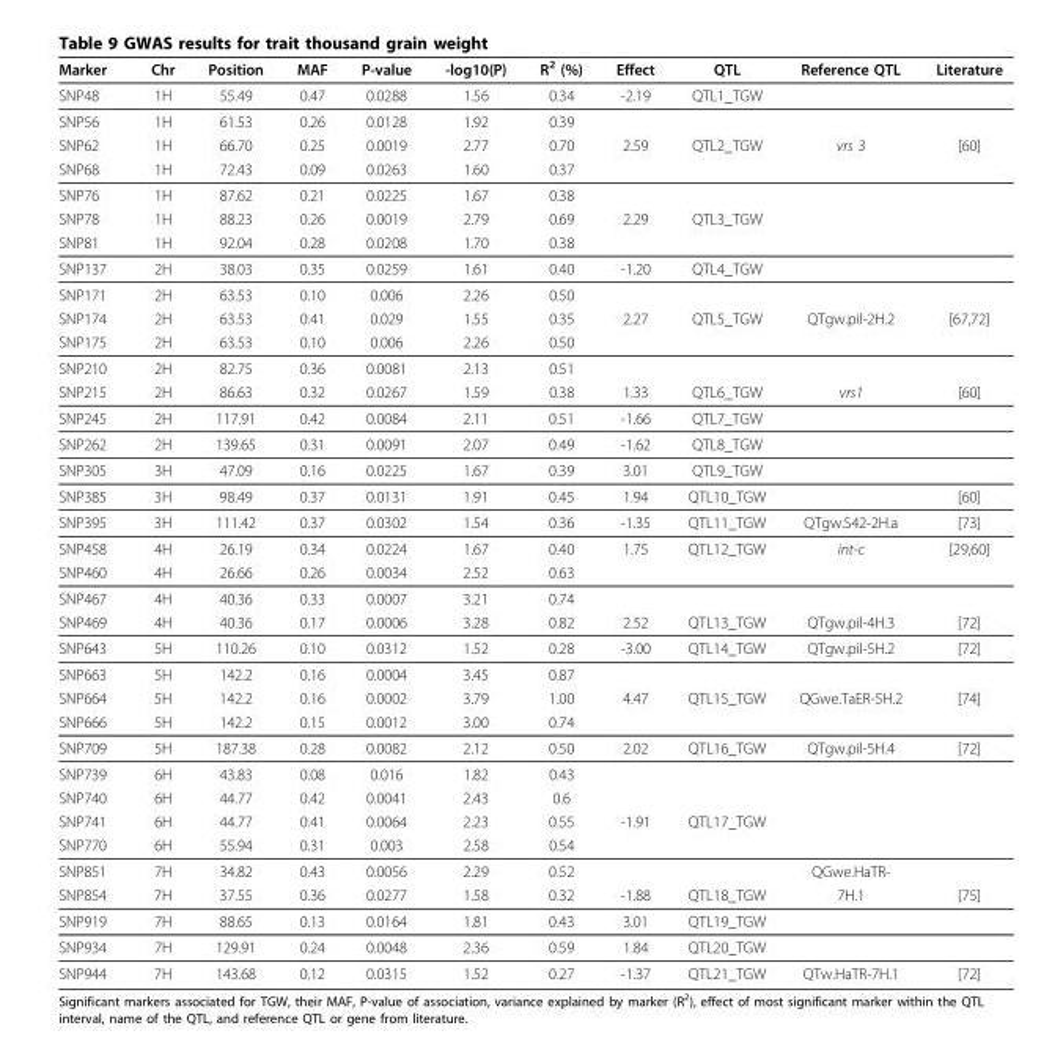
<table><thead><tr><td>Marker</td><td>Chr</td><td>Position</td><td>MAF</td><td>P-value</td><td>-log10(P)</td><td>R<sup>2</sup> (%)</td><td>Effect</td><td>QTL</td><td>Reference QTL</td><td>Literature</td></tr></thead><tbody><tr><td>SNP48</td><td>1H</td><td>55.49</td><td>0.47</td><td>0.0288</td><td>1.56</td><td>0.34</td><td>-2.19</td><td>QTL1_TGW</td><td></td><td></td></tr><tr><td>SNP56</td><td>1H</td><td>61.53</td><td>0.26</td><td>0.0128</td><td>1.92</td><td>0.39</td><td></td><td></td><td></td><td></td></tr><tr><td>SNP62</td><td>1H</td><td>66.70</td><td>0.25</td><td>0.0019</td><td>2.77</td><td>0.70</td><td>2.59</td><td>QTL2_TGW</td><td>vrs 3</td><td>[60]</td></tr><tr><td>SNP68</td><td>1H</td><td>72.43</td><td>0.09</td><td>0.0263</td><td>1.60</td><td>0.37</td><td></td><td></td><td></td><td></td></tr><tr><td>SNP76</td><td>1H</td><td>87.62</td><td>0.21</td><td>0.0225</td><td>1.67</td><td>0.38</td><td></td><td></td><td></td><td></td></tr><tr><td>SNP78</td><td>1H</td><td>88.23</td><td>0.26</td><td>0.0019</td><td>2.79</td><td>0.69</td><td>2.29</td><td>QTL3_TGW</td><td></td><td></td></tr><tr><td>SNP81</td><td>1H</td><td>92.04</td><td>0.28</td><td>0.0208</td><td>1.70</td><td>0.38</td><td></td><td></td><td></td><td></td></tr><tr><td>SNP137</td><td>2H</td><td>38.03</td><td>0.35</td><td>0.0259</td><td>1.61</td><td>0.40</td><td>-1.20</td><td>QTL4_TGW</td><td></td><td></td></tr><tr><td>SNP171</td><td>2H</td><td>63.53</td><td>0.10</td><td>0.006</td><td>2.26</td><td>0.50</td><td></td><td></td><td></td><td></td></tr><tr><td>SNP174</td><td>2H</td><td>63.53</td><td>0.41</td><td>0.029</td><td>1.55</td><td>0.35</td><td>2.27</td><td>QTL5_TGW</td><td>QTgw.pil-2H.2</td><td>[67,72]</td></tr><tr><td>SNP175</td><td>2H</td><td>63.53</td><td>0.10</td><td>0.006</td><td>2.26</td><td>0.50</td><td></td><td></td><td></td><td></td></tr><tr><td>SNP210</td><td>2H</td><td>82.75</td><td>0.36</td><td>0.0081</td><td>2.13</td><td>0.51</td><td></td><td></td><td></td><td></td></tr><tr><td>SNP215</td><td>2H</td><td>86.63</td><td>0.32</td><td>0.0267</td><td>1.59</td><td>0.38</td><td>1.33</td><td>QTL6_TGW</td><td>vrs1</td><td>[60]</td></tr><tr><td>SNP245</td><td>2H</td><td>117.91</td><td>0.42</td><td>0.0084</td><td>2.11</td><td>0.51</td><td>-1.66</td><td>QTL7_TGW</td><td></td><td></td></tr><tr><td>SNP262</td><td>2H</td><td>139.65</td><td>0.31</td><td>0.0091</td><td>2.07</td><td>0.49</td><td>-1.62</td><td>QTL8_TGW</td><td></td><td></td></tr><tr><td>SNP305</td><td>3H</td><td>47.09</td><td>0.16</td><td>0.0225</td><td>1.67</td><td>0.39</td><td>3.01</td><td>QTL9_TGW</td><td></td><td></td></tr><tr><td>SNP385</td><td>3H</td><td>98.49</td><td>0.37</td><td>0.0131</td><td>1.91</td><td>0.45</td><td>1.94</td><td>QTL10_TGW</td><td></td><td>[60]</td></tr><tr><td>SNP395</td><td>3H</td><td>111.42</td><td>0.37</td><td>0.0302</td><td>1.54</td><td>0.36</td><td>-1.35</td><td>QTL11_TGW</td><td>QTgw.S42-2H.a</td><td>[73]</td></tr><tr><td>SNP458</td><td>4H</td><td>26.19</td><td>0.34</td><td>0.0224</td><td>1.67</td><td>0.40</td><td>1.75</td><td>QTL12_TGW</td><td>int-c</td><td>[29,60]</td></tr><tr><td>SNP460</td><td>4H</td><td>26.66</td><td>0.26</td><td>0.0034</td><td>2.52</td><td>0.63</td><td></td><td></td><td></td><td></td></tr><tr><td>SNP467</td><td>4H</td><td>40.36</td><td>0.33</td><td>0.0007</td><td>3.21</td><td>0.74</td><td></td><td></td><td></td><td></td></tr><tr><td>SNP469</td><td>4H</td><td>40.36</td><td>0.17</td><td>0.0006</td><td>3.28</td><td>0.82</td><td>2.52</td><td>QTL13_TGW</td><td>QTgw.pil-4H.3</td><td>[72]</td></tr><tr><td>SNP643</td><td>5H</td><td>110.26</td><td>0.10</td><td>0.0312</td><td>1.52</td><td>0.28</td><td>-3.00</td><td>QTL14_TGW</td><td>QTgw.pil-5H.2</td><td>[72]</td></tr><tr><td>SNP663</td><td>5H</td><td>142.2</td><td>0.16</td><td>0.0004</td><td>3.45</td><td>0.87</td><td></td><td></td><td></td><td></td></tr><tr><td>SNP664</td><td>5H</td><td>142.2</td><td>0.16</td><td>0.0002</td><td>3.79</td><td>1.00</td><td>4.47</td><td>QTL15_TGW</td><td>QGwe.TaER-5H.2</td><td>[74]</td></tr><tr><td>SNP666</td><td>5H</td><td>142.2</td><td>0.15</td><td>0.0012</td><td>3.00</td><td>0.74</td><td></td><td></td><td></td><td></td></tr><tr><td>SNP709</td><td>5H</td><td>187.38</td><td>0.28</td><td>0.0082</td><td>2.12</td><td>0.50</td><td>2.02</td><td>QTL16_TGW</td><td>QTgw.pil-5H.4</td><td>[72]</td></tr><tr><td>SNP739</td><td>6H</td><td>43.83</td><td>0.08</td><td>0.016</td><td>1.82</td><td>0.43</td><td></td><td></td><td></td><td></td></tr><tr><td>SNP740</td><td>6H</td><td>44.77</td><td>0.42</td><td>0.0041</td><td>2.43</td><td>0.6</td><td></td><td></td><td></td><td></td></tr><tr><td>SNP741</td><td>6H</td><td>44.77</td><td>0.41</td><td>0.0064</td><td>2.23</td><td>0.55</td><td>-1.91</td><td>QTL17_TGW</td><td></td><td></td></tr><tr><td>SNP770</td><td>6H</td><td>55.94</td><td>0.31</td><td>0.003</td><td>2.58</td><td>0.54</td><td></td><td></td><td></td><td></td></tr><tr><td>SNP851</td><td>7H</td><td>34.82</td><td>0.43</td><td>0.0056</td><td>2.29</td><td>0.52</td><td></td><td></td><td>QGwe.HaTR-</td><td></td></tr><tr><td>SNP854</td><td>7H</td><td>37.55</td><td>0.36</td><td>0.0277</td><td>1.58</td><td>0.32</td><td>-1.88</td><td>QTL18_TGW</td><td>7H.1</td><td>[75]</td></tr><tr><td>SNP919</td><td>7H</td><td>88.65</td><td>0.13</td><td>0.0164</td><td>1.81</td><td>0.43</td><td>3.01</td><td>QTL19_TGW</td><td></td><td></td></tr><tr><td>SNP934</td><td>7H</td><td>129.91</td><td>0.24</td><td>0.0048</td><td>2.36</td><td>0.59</td><td>1.84</td><td>QTL20_TGW</td><td></td><td></td></tr><tr><td>SNP944</td><td>7H</td><td>143.68</td><td>0.12</td><td>0.0315</td><td>1.52</td><td>0.27</td><td>-1.37</td><td>QTL21_TGW</td><td>QTw.HaTR-7H.1</td><td>[72]</td></tr></tbody></table>